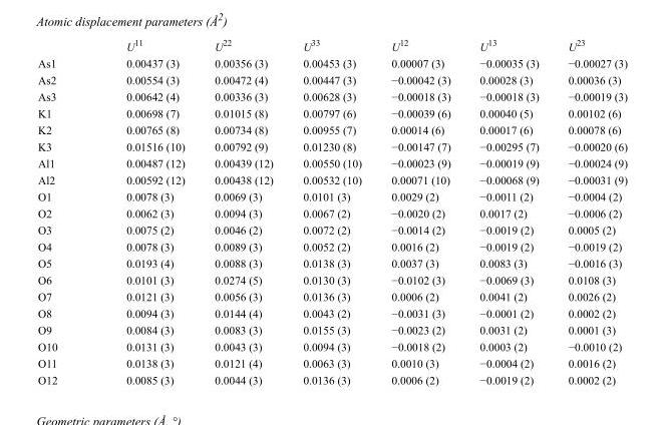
<table><thead><tr><td></td><td>U<sup>11</sup></td><td>U<sup>22</sup></td><td>U<sup>33</sup></td><td>U<sup>12</sup></td><td>U<sup>13</sup></td><td>U<sup>23</sup></td></tr></thead><tbody><tr><td>As1</td><td>0.00437 (3)</td><td>0.00356 (3)</td><td>0.00453 (3)</td><td>0.00007 (3)</td><td>−0.00035 (3)</td><td>−0.00027 (3)</td></tr><tr><td>As2</td><td>0.00554 (3)</td><td>0.00472 (4)</td><td>0.00447 (3)</td><td>−0.00042 (3)</td><td>0.00028 (3)</td><td>0.00036 (3)</td></tr><tr><td>As3</td><td>0.00642 (4)</td><td>0.00336 (3)</td><td>0.00628 (3)</td><td>−0.00018 (3)</td><td>−0.00018 (3)</td><td>−0.00019 (3)</td></tr><tr><td>K1</td><td>0.00698 (7)</td><td>0.01015 (8)</td><td>0.00797 (6)</td><td>−0.00039 (6)</td><td>0.00040 (5)</td><td>0.00102 (6)</td></tr><tr><td>K2</td><td>0.00765 (8)</td><td>0.00734 (8)</td><td>0.00955 (7)</td><td>0.00014 (6)</td><td>0.00017 (6)</td><td>0.00078 (6)</td></tr><tr><td>K3</td><td>0.01516 (10)</td><td>0.00792 (9)</td><td>0.01230 (8)</td><td>−0.00147 (7)</td><td>−0.00295 (7)</td><td>−0.00020 (6)</td></tr><tr><td>Al1</td><td>0.00487 (12)</td><td>0.00439 (12)</td><td>0.00550 (10)</td><td>−0.00023 (9)</td><td>−0.00019 (9)</td><td>−0.00024 (9)</td></tr><tr><td>Al2</td><td>0.00592 (12)</td><td>0.00438 (12)</td><td>0.00532 (10)</td><td>0.00071 (10)</td><td>−0.00068 (9)</td><td>−0.00031 (9)</td></tr><tr><td>O1</td><td>0.0078 (3)</td><td>0.0069 (3)</td><td>0.0101 (3)</td><td>0.0029 (2)</td><td>−0.0011 (2)</td><td>−0.0004 (2)</td></tr><tr><td>O2</td><td>0.0062 (3)</td><td>0.0094 (3)</td><td>0.0067 (2)</td><td>−0.0020 (2)</td><td>0.0017 (2)</td><td>−0.0006 (2)</td></tr><tr><td>O3</td><td>0.0075 (2)</td><td>0.0046 (2)</td><td>0.0072 (2)</td><td>−0.0014 (2)</td><td>−0.0019 (2)</td><td>0.0005 (2)</td></tr><tr><td>O4</td><td>0.0078 (3)</td><td>0.0089 (3)</td><td>0.0052 (2)</td><td>0.0016 (2)</td><td>−0.0019 (2)</td><td>−0.0019 (2)</td></tr><tr><td>O5</td><td>0.0193 (4)</td><td>0.0088 (3)</td><td>0.0138 (3)</td><td>0.0037 (3)</td><td>0.0083 (3)</td><td>−0.0016 (3)</td></tr><tr><td>O6</td><td>0.0101 (3)</td><td>0.0274 (5)</td><td>0.0130 (3)</td><td>−0.0102 (3)</td><td>−0.0069 (3)</td><td>0.0108 (3)</td></tr><tr><td>O7</td><td>0.0121 (3)</td><td>0.0056 (3)</td><td>0.0136 (3)</td><td>0.0006 (2)</td><td>0.0041 (2)</td><td>0.0026 (2)</td></tr><tr><td>O8</td><td>0.0094 (3)</td><td>0.0144 (4)</td><td>0.0043 (2)</td><td>−0.0031 (3)</td><td>−0.0001 (2)</td><td>0.0002 (2)</td></tr><tr><td>O9</td><td>0.0084 (3)</td><td>0.0083 (3)</td><td>0.0155 (3)</td><td>−0.0023 (2)</td><td>0.0031 (2)</td><td>0.0001 (3)</td></tr><tr><td>O10</td><td>0.0131 (3)</td><td>0.0043 (3)</td><td>0.0094 (3)</td><td>−0.0018 (2)</td><td>0.0003 (2)</td><td>−0.0010 (2)</td></tr><tr><td>O11</td><td>0.0138 (3)</td><td>0.0121 (4)</td><td>0.0063 (3)</td><td>0.0010 (3)</td><td>−0.0004 (2)</td><td>0.0016 (2)</td></tr><tr><td>O12</td><td>0.0085 (3)</td><td>0.0044 (3)</td><td>0.0136 (3)</td><td>0.0006 (2)</td><td>−0.0019 (2)</td><td>0.0002 (2)</td></tr></tbody></table>